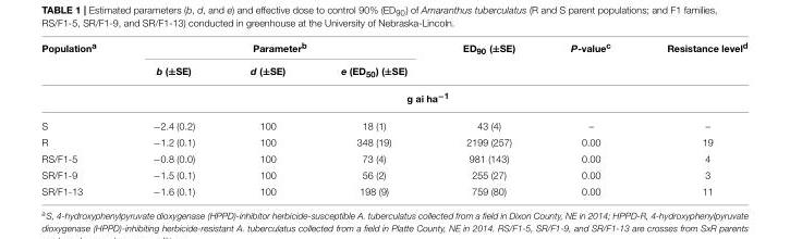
<table><thead><tr><td rowspan="2">Population<sup>a</sup></td><td colspan="3">Parameter<sup>b</sup></td><td rowspan="2">ED<sub>90</sub> (±SE)</td><td rowspan="2">P-value<sup>c</sup></td><td rowspan="2">Resistance level<sup>d</sup></td></tr><tr><td>b (±SE)</td><td>d (±SE)</td><td>e (ED<sub>50</sub>) (±SE)</td></tr></thead><tbody><tr><td></td><td></td><td></td><td colspan="2">g ai ha<sup>−1</sup></td><td></td><td></td></tr><tr><td>S</td><td>−2.4 (0.2)</td><td>100</td><td>18 (1)</td><td>43 (4)</td><td>–</td><td>–</td></tr><tr><td>R</td><td>−1.2 (0.1)</td><td>100</td><td>348 (19)</td><td>2199 (257)</td><td>0.00</td><td>19</td></tr><tr><td>RS/F1-5</td><td>−0.8 (0.0)</td><td>100</td><td>73 (4)</td><td>981 (143)</td><td>0.00</td><td>4</td></tr><tr><td>SR/F1-9</td><td>−1.5 (0.1)</td><td>100</td><td>56 (2)</td><td>255 (27)</td><td>0.00</td><td>3</td></tr><tr><td>SR/F1-13</td><td>−1.6 (0.1)</td><td>100</td><td>198 (9)</td><td>759 (80)</td><td>0.00</td><td>11</td></tr></tbody></table>